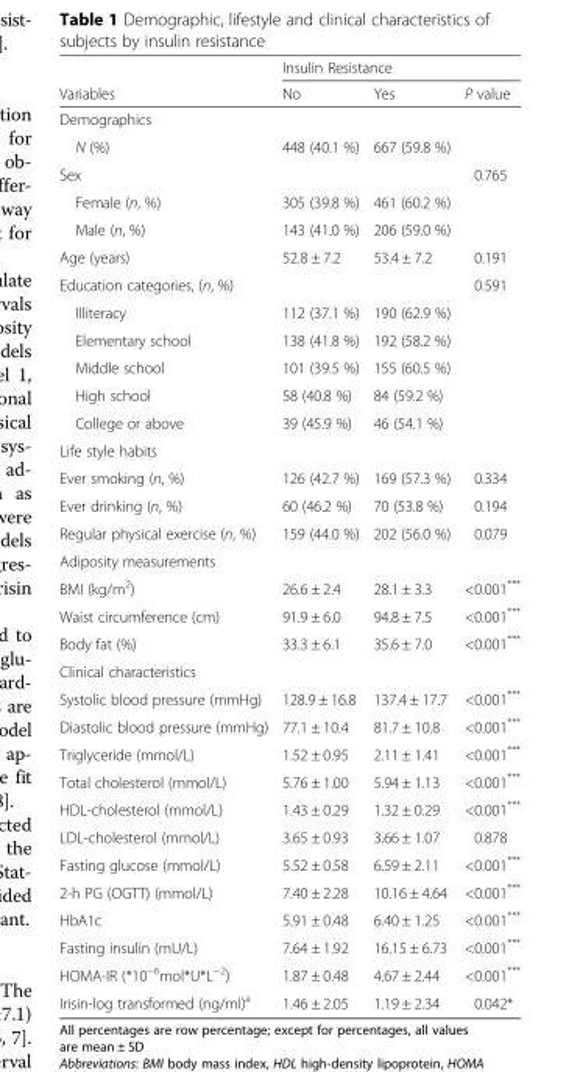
<table><thead><tr><td rowspan="2">Variables</td><td colspan="3">Insulin Resistance</td></tr><tr><td>No</td><td>Yes</td><td>P value</td></tr></thead><tbody><tr><td colspan="4">Demographics</td></tr><tr><td>N (%)</td><td>448 (40.1 %)</td><td>667 (59.8 %)</td><td></td></tr><tr><td>Sex</td><td></td><td></td><td>0.765</td></tr><tr><td>Female (n, %)</td><td>305 (39.8 %)</td><td>461 (60.2 %)</td><td></td></tr><tr><td>Male (n, %)</td><td>143 (41.0 %)</td><td>206 (59.0 %)</td><td></td></tr><tr><td>Age (years)</td><td>52.8 ± 7.2</td><td>53.4 ± 7.2</td><td>0.191</td></tr><tr><td>Education categories, (n, %)</td><td></td><td></td><td>0.591</td></tr><tr><td>Illiteracy</td><td>112 (37.1 %)</td><td>190 (62.9 %)</td><td></td></tr><tr><td>Elementary school</td><td>138 (41.8 %)</td><td>192 (58.2 %)</td><td></td></tr><tr><td>Middle school</td><td>101 (39.5 %)</td><td>155 (60.5 %)</td><td></td></tr><tr><td>High school</td><td>58 (40.8 %)</td><td>84 (59.2 %)</td><td></td></tr><tr><td>College or above</td><td>39 (45.9 %)</td><td>46 (54.1 %)</td><td></td></tr><tr><td colspan="4">Life style habits</td></tr><tr><td>Ever smoking (n, %)</td><td>126 (42.7 %)</td><td>169 (57.3 %)</td><td>0.334</td></tr><tr><td>Ever drinking (n, %)</td><td>60 (46.2 %)</td><td>70 (53.8 %)</td><td>0.194</td></tr><tr><td>Regular physical exercise (n, %)</td><td>159 (44.0 %)</td><td>202 (56.0 %)</td><td>0.079</td></tr><tr><td colspan="4">Adiposity measurements</td></tr><tr><td>BMI (kg/m<sup>2</sup>)</td><td>26.6 ± 2.4</td><td>28.1 ± 3.3</td><td>&lt;0.001***</td></tr><tr><td>Waist circumference (cm)</td><td>91.9 ± 6.0</td><td>94.8 ± 7.5</td><td>&lt;0.001***</td></tr><tr><td>Body fat (%)</td><td>33.3 ± 6.1</td><td>35.6 ± 7.0</td><td>&lt;0.001***</td></tr><tr><td colspan="4">Clinical characteristics</td></tr><tr><td>Systolic blood pressure (mmHg)</td><td>128.9 ± 16.8</td><td>137.4 ± 17.7</td><td>&lt;0.001***</td></tr><tr><td>Diastolic blood pressure (mmHg)</td><td>77.1 ± 10.4</td><td>81.7 ± 10.8</td><td>&lt;0.001***</td></tr><tr><td>Triglyceride (mmol/L)</td><td>1.52 ± 0.95</td><td>2.11 ± 1.41</td><td>&lt;0.001***</td></tr><tr><td>Total cholesterol (mmol/L)</td><td>5.76 ± 1.00</td><td>5.94 ± 1.13</td><td>&lt;0.001***</td></tr><tr><td>HDL-cholesterol (mmol/L)</td><td>1.43 ± 0.29</td><td>1.32 ± 0.29</td><td>&lt;0.001***</td></tr><tr><td>LDL-cholesterol (mmol/L)</td><td>3.65 ± 0.93</td><td>3.66 ± 1.07</td><td>0.878</td></tr><tr><td>Fasting glucose (mmol/L)</td><td>5.52 ± 0.58</td><td>6.59 ± 2.11</td><td>&lt;0.001***</td></tr><tr><td>2-h PG (OGTT) (mmol/L)</td><td>7.40 ± 2.28</td><td>10.16 ± 4.64</td><td>&lt;0.001***</td></tr><tr><td>HbA1c</td><td>5.91 ± 0.48</td><td>6.40 ± 1.25</td><td>&lt;0.001***</td></tr><tr><td>Fasting insulin (mU/L)</td><td>7.64 ± 1.92</td><td>16.15 ± 6.73</td><td>&lt;0.001***</td></tr><tr><td>HOMA-IR (*10<sup>−6</sup>mol*U*L<sup>−2</sup>)</td><td>1.87 ± 0.48</td><td>4.67 ± 2.44</td><td>&lt;0.001***</td></tr><tr><td>Irisin-log transformed (ng/ml)<sup>a</sup></td><td>1.46 ± 2.05</td><td>1.19 ± 2.34</td><td>0.042*</td></tr></tbody></table>